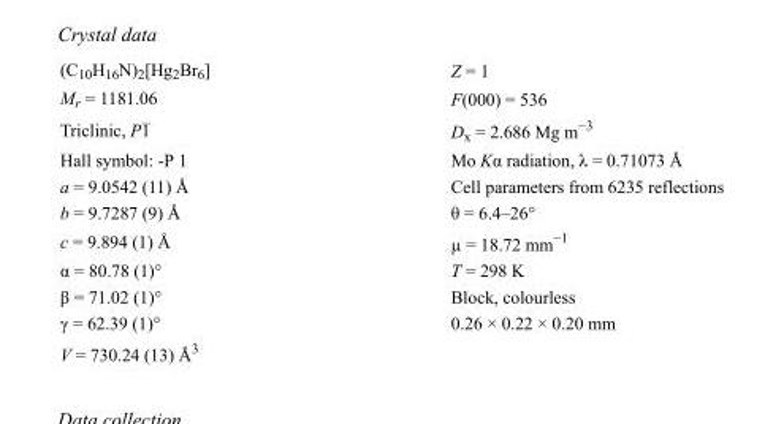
<table><tbody><tr><td>(C<sub>10</sub>H<sub>16</sub>N)<sub>2</sub>[Hg<sub>2</sub>Br<sub>6</sub>]</td><td>Z = 1</td></tr><tr><td>M<sub>r</sub> = 1181.06</td><td>F(000) = 536</td></tr><tr><td>Triclinic, P1</td><td>D<sub>x</sub> = 2.686 Mg m<sup>−3</sup></td></tr><tr><td>Hall symbol: -P 1</td><td>Mo Kα radiation, λ = 0.71073 Å</td></tr><tr><td>a = 9.0542 (11) Å</td><td>Cell parameters from 6235 reflections</td></tr><tr><td>b = 9.7287 (9) Å</td><td>θ = 6.4–26°</td></tr><tr><td>c = 9.894 (1) Å</td><td>µ = 18.72 mm<sup>−1</sup></td></tr><tr><td>α = 80.78 (1)°</td><td>T = 298 K</td></tr><tr><td>β = 71.02 (1)°</td><td>Block, colourless</td></tr><tr><td>γ = 62.39 (1)°</td><td>0.26 × 0.22 × 0.20 mm</td></tr><tr><td>V = 730.24 (13) Å<sup>3</sup></td><td></td></tr></tbody></table>